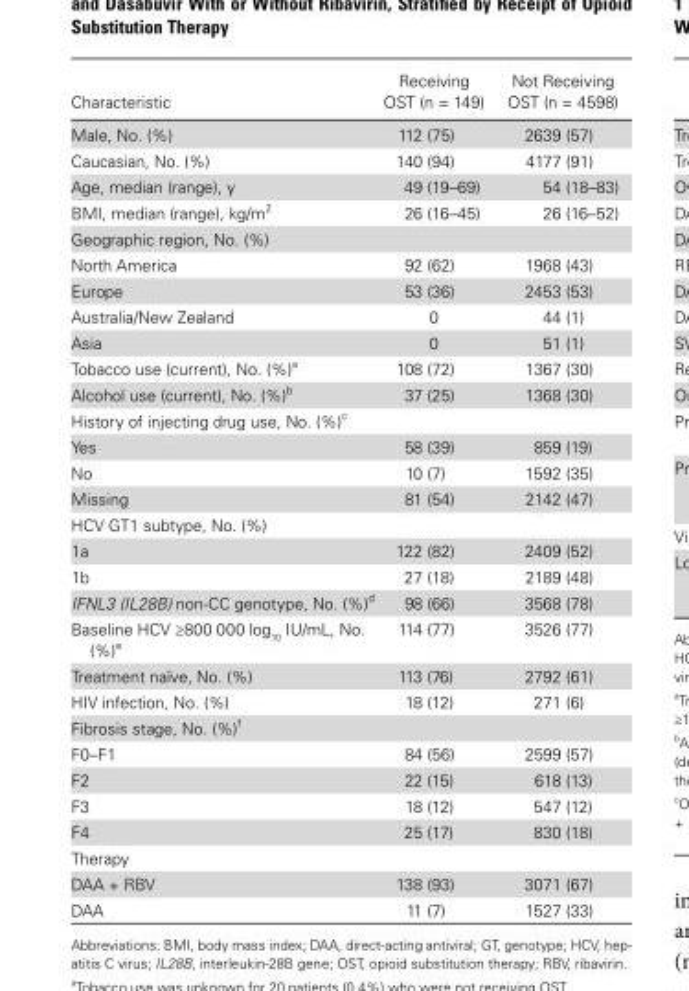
<table><thead><tr><td>Characteristic</td><td>Receiving OST (n = 149)</td><td>Not Receiving OST (n = 4598)</td></tr></thead><tbody><tr><td>Male, No. (%)</td><td>112 (75)</td><td>2639 (57)</td></tr><tr><td>Caucasian, No. (%)</td><td>140 (94)</td><td>4177 (91)</td></tr><tr><td>Age, median (range), y</td><td>49 (19–69)</td><td>54 (18–83)</td></tr><tr><td>BMI, median (range), kg/m<sup>2</sup></td><td>26 (16–45)</td><td>26 (16–52)</td></tr><tr><td colspan="3">Geographic region, No. (%)</td></tr><tr><td>North America</td><td>92 (62)</td><td>1968 (43)</td></tr><tr><td>Europe</td><td>53 (36)</td><td>2453 (53)</td></tr><tr><td>Australia/New Zealand</td><td>0</td><td>44 (1)</td></tr><tr><td>Asia</td><td>0</td><td>51 (1)</td></tr><tr><td>Tobacco use (current), No. (%)<sup>a</sup></td><td>108 (72)</td><td>1367 (30)</td></tr><tr><td>Alcohol use (current), No. (%)<sup>b</sup></td><td>37 (25)</td><td>1368 (30)</td></tr><tr><td colspan="3">History of injecting drug use, No. (%)<sup>c</sup></td></tr><tr><td>Yes</td><td>58 (39)</td><td>859 (19)</td></tr><tr><td>No</td><td>10 (7)</td><td>1592 (35)</td></tr><tr><td>Missing</td><td>81 (54)</td><td>2142 (47)</td></tr><tr><td colspan="3">HCV GT1 subtype, No. (%)</td></tr><tr><td>1a</td><td>122 (82)</td><td>2409 (52)</td></tr><tr><td>1b</td><td>27 (18)</td><td>2189 (48)</td></tr><tr><td>IFNL3 (IL28B) non-CC genotype, No. (%)<sup>d</sup></td><td>98 (66)</td><td>3568 (78)</td></tr><tr><td>Baseline HCV ≥800 000 log<sub>10</sub> IU/mL, No. (%)<sup>e</sup></td><td>114 (77)</td><td>3526 (77)</td></tr><tr><td>Treatment naïve, No. (%)</td><td>113 (76)</td><td>2792 (61)</td></tr><tr><td>HIV infection, No. (%)</td><td>18 (12)</td><td>271 (6)</td></tr><tr><td colspan="3">Fibrosis stage, No. (%)<sup>f</sup></td></tr><tr><td>F0–F1</td><td>84 (56)</td><td>2599 (57)</td></tr><tr><td>F2</td><td>22 (15)</td><td>618 (13)</td></tr><tr><td>F3</td><td>18 (12)</td><td>547 (12)</td></tr><tr><td>F4</td><td>25 (17)</td><td>830 (18)</td></tr><tr><td colspan="3">Therapy</td></tr><tr><td>DAA + RBV</td><td>138 (93)</td><td>3071 (67)</td></tr><tr><td>DAA</td><td>11 (7)</td><td>1527 (33)</td></tr></tbody></table>